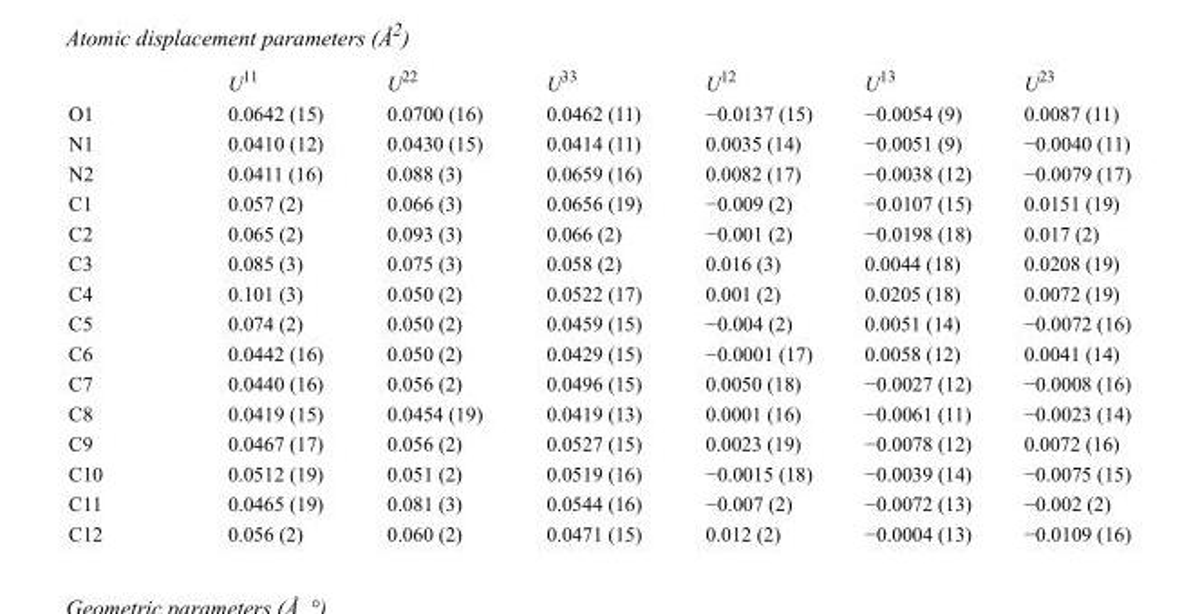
<table><thead><tr><td></td><td>U<sup>11</sup></td><td>U<sup>22</sup></td><td>U<sup>33</sup></td><td>U<sup>12</sup></td><td>U<sup>13</sup></td><td>U<sup>23</sup></td></tr></thead><tbody><tr><td>O1</td><td>0.0642 (15)</td><td>0.0700 (16)</td><td>0.0462 (11)</td><td>−0.0137 (15)</td><td>−0.0054 (9)</td><td>0.0087 (11)</td></tr><tr><td>N1</td><td>0.0410 (12)</td><td>0.0430 (15)</td><td>0.0414 (11)</td><td>0.0035 (14)</td><td>−0.0051 (9)</td><td>−0.0040 (11)</td></tr><tr><td>N2</td><td>0.0411 (16)</td><td>0.088 (3)</td><td>0.0659 (16)</td><td>0.0082 (17)</td><td>−0.0038 (12)</td><td>−0.0079 (17)</td></tr><tr><td>C1</td><td>0.057 (2)</td><td>0.066 (3)</td><td>0.0656 (19)</td><td>−0.009 (2)</td><td>−0.0107 (15)</td><td>0.0151 (19)</td></tr><tr><td>C2</td><td>0.065 (2)</td><td>0.093 (3)</td><td>0.066 (2)</td><td>−0.001 (2)</td><td>−0.0198 (18)</td><td>0.017 (2)</td></tr><tr><td>C3</td><td>0.085 (3)</td><td>0.075 (3)</td><td>0.058 (2)</td><td>0.016 (3)</td><td>0.0044 (18)</td><td>0.0208 (19)</td></tr><tr><td>C4</td><td>0.101 (3)</td><td>0.050 (2)</td><td>0.0522 (17)</td><td>0.001 (2)</td><td>0.0205 (18)</td><td>0.0072 (19)</td></tr><tr><td>C5</td><td>0.074 (2)</td><td>0.050 (2)</td><td>0.0459 (15)</td><td>−0.004 (2)</td><td>0.0051 (14)</td><td>−0.0072 (16)</td></tr><tr><td>C6</td><td>0.0442 (16)</td><td>0.050 (2)</td><td>0.0429 (15)</td><td>−0.0001 (17)</td><td>0.0058 (12)</td><td>0.0041 (14)</td></tr><tr><td>C7</td><td>0.0440 (16)</td><td>0.056 (2)</td><td>0.0496 (15)</td><td>0.0050 (18)</td><td>−0.0027 (12)</td><td>−0.0008 (16)</td></tr><tr><td>C8</td><td>0.0419 (15)</td><td>0.0454 (19)</td><td>0.0419 (13)</td><td>0.0001 (16)</td><td>−0.0061 (11)</td><td>−0.0023 (14)</td></tr><tr><td>C9</td><td>0.0467 (17)</td><td>0.056 (2)</td><td>0.0527 (15)</td><td>0.0023 (19)</td><td>−0.0078 (12)</td><td>0.0072 (16)</td></tr><tr><td>C10</td><td>0.0512 (19)</td><td>0.051 (2)</td><td>0.0519 (16)</td><td>−0.0015 (18)</td><td>−0.0039 (14)</td><td>−0.0075 (15)</td></tr><tr><td>C11</td><td>0.0465 (19)</td><td>0.081 (3)</td><td>0.0544 (16)</td><td>−0.007 (2)</td><td>−0.0072 (13)</td><td>−0.002 (2)</td></tr><tr><td>C12</td><td>0.056 (2)</td><td>0.060 (2)</td><td>0.0471 (15)</td><td>0.012 (2)</td><td>−0.0004 (13)</td><td>−0.0109 (16)</td></tr></tbody></table>